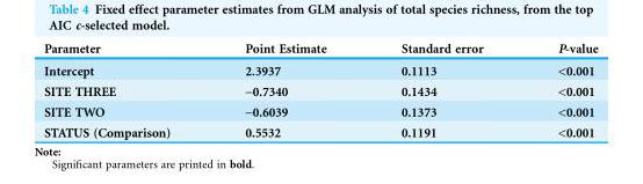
<table><thead><tr><td>Parameter</td><td>Point Estimate</td><td>Standard error</td><td>P-value</td></tr></thead><tbody><tr><td>Intercept</td><td>2.3937</td><td>0.1113</td><td>&lt;0.001</td></tr><tr><td>SITE THREE</td><td>-0.7340</td><td>0.1434</td><td>&lt;0.001</td></tr><tr><td>SITE TWO</td><td>-0.6039</td><td>0.1373</td><td>&lt;0.001</td></tr><tr><td>STATUS (Comparison)</td><td>0.5532</td><td>0.1191</td><td>&lt;0.001</td></tr></tbody></table>